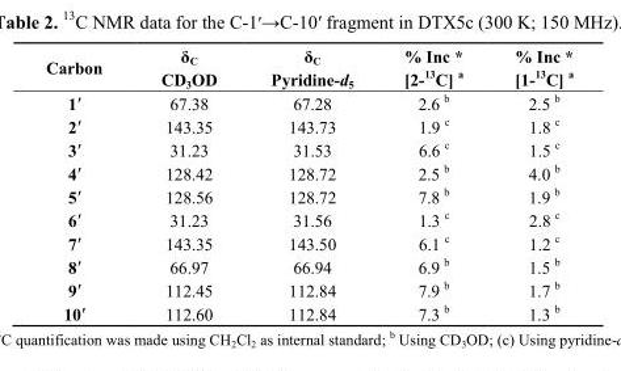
<table><thead><tr><td>Carbon</td><td>δ<sub>C</sub> CD<sub>3</sub>OD</td><td>δ<sub>C</sub> Pyridine-d<sub>5</sub></td><td>% Inc * [2-<sup>13</sup>C] a</td><td>% Inc * [1-<sup>13</sup>C] a</td></tr></thead><tbody><tr><td>1′</td><td>67.38</td><td>67.28</td><td>2.6 <sup>b</sup></td><td>2.5 <sup>b</sup></td></tr><tr><td>2′</td><td>143.35</td><td>143.73</td><td>1.9 <sup>c</sup></td><td>1.8 <sup>c</sup></td></tr><tr><td>3′</td><td>31.23</td><td>31.53</td><td>6.6 <sup>c</sup></td><td>1.5 <sup>c</sup></td></tr><tr><td>4′</td><td>128.42</td><td>128.72</td><td>2.5 <sup>b</sup></td><td>4.0 <sup>b</sup></td></tr><tr><td>5′</td><td>128.56</td><td>128.72</td><td>7.8 <sup>b</sup></td><td>1.9 <sup>b</sup></td></tr><tr><td>6′</td><td>31.23</td><td>31.56</td><td>1.3 <sup>c</sup></td><td>2.8 <sup>c</sup></td></tr><tr><td>7′</td><td>143.35</td><td>143.50</td><td>6.1 <sup>c</sup></td><td>1.2 <sup>c</sup></td></tr><tr><td>8′</td><td>66.97</td><td>66.94</td><td>6.9 <sup>b</sup></td><td>1.5 <sup>b</sup></td></tr><tr><td>9′</td><td>112.45</td><td>112.84</td><td>7.9 <sup>b</sup></td><td>1.7 <sup>b</sup></td></tr><tr><td>10′</td><td>112.60</td><td>112.84</td><td>7.3 <sup>b</sup></td><td>1.3 <sup>b</sup></td></tr></tbody></table>